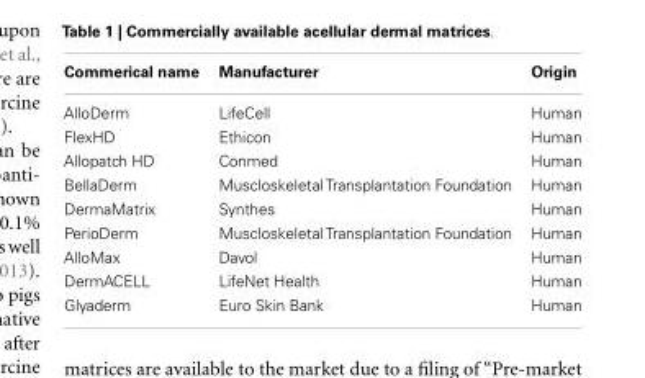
<table><thead><tr><td>Commerical name</td><td>Manufacturer</td><td>Origin</td></tr></thead><tbody><tr><td>AlloDerm</td><td>LifeCell</td><td>Human</td></tr><tr><td>FlexHD</td><td>Ethicon</td><td>Human</td></tr><tr><td>Allopatch HD</td><td>Conmed</td><td>Human</td></tr><tr><td>BellaDerm</td><td>Muscloskeletal Transplantation Foundation</td><td>Human</td></tr><tr><td>DermaMatrix</td><td>Synthes</td><td>Human</td></tr><tr><td>PerioDerm</td><td>Muscloskeletal Transplantation Foundation</td><td>Human</td></tr><tr><td>AlloMax</td><td>Davol</td><td>Human</td></tr><tr><td>DermACELL</td><td>LifeNet Health</td><td>Human</td></tr><tr><td>Glyaderm</td><td>Euro Skin Bank</td><td>Human</td></tr></tbody></table>